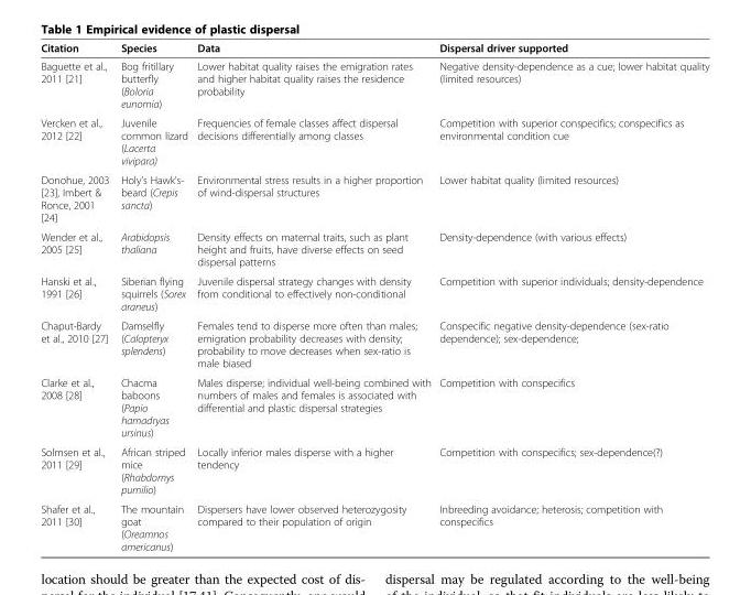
<table><thead><tr><td>Citation</td><td>Species</td><td>Data</td><td>Dispersal driver supported</td></tr></thead><tbody><tr><td>Baguette et al., 2011 [21]</td><td>Bog fritillary butterfly (Boloria eunomia)</td><td>Lower habitat quality raises the emigration rates and higher habitat quality raises the residence probability</td><td>Negative density-dependence as a cue; lower habitat quality (limited resources)</td></tr><tr><td>Vercken et al., 2012 [22]</td><td>Juvenile common lizard (Lacerta vivipara)</td><td>Frequencies of female classes affect dispersal decisions differentially among classes</td><td>Competition with superior conspecifics; conspecifics as environmental condition cue</td></tr><tr><td>Donohue, 2003 [23], Imbert &amp; Ronce, 2001 [24]</td><td>Holy’s Hawk’s- beard (Crepis sancta)</td><td>Environmental stress results in a higher proportion of wind-dispersal structures</td><td>Lower habitat quality (limited resources)</td></tr><tr><td>Wender et al., 2005 [25]</td><td>Arabidopsis thaliana</td><td>Density effects on maternal traits, such as plant height and fruits, have diverse effects on seed dispersal patterns</td><td>Density-dependence (with various effects)</td></tr><tr><td>Hanski et al., 1991 [26]</td><td>Siberian flying squirrels (Sorex araneus)</td><td>Juvenile dispersal strategy changes with density from conditional to effectively non-conditional</td><td>Competition with superior individuals; density-dependence</td></tr><tr><td>Chaput-Bardy et al., 2010 [27]</td><td>Damselfly (Calopteryx splendens)</td><td>Females tend to disperse more often than males; emigration probability decreases with density; probability to move decreases when sex-ratio is male biased</td><td>Conspecific negative density-dependence (sex-ratio dependence); sex-dependence;</td></tr><tr><td>Clarke et al., 2008 [28]</td><td>Chacma baboons (Papio hamadryas ursinus)</td><td>Males disperse; individual well-being combined with numbers of males and females is associated with differential and plastic dispersal strategies</td><td>Competition with conspecifics</td></tr><tr><td>Solmsen et al., 2011 [29]</td><td>African striped mice (Rhabdomys pumilio)</td><td>Locally inferior males disperse with a higher tendency</td><td>Competition with conspecifics; sex-dependence(?)</td></tr><tr><td>Shafer et al., 2011 [30]</td><td>The mountain goat (Oreamnos americanus)</td><td>Dispersers have lower observed heterozygosity compared to their population of origin</td><td>Inbreeding avoidance; heterosis; competition with conspecifics</td></tr></tbody></table>